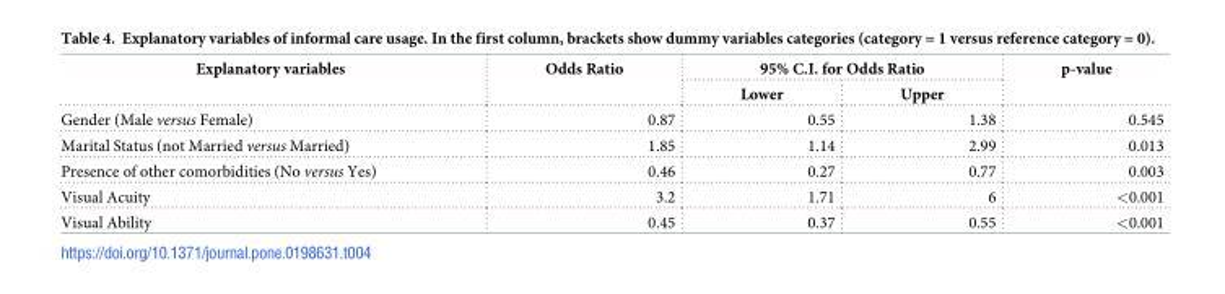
<table><thead><tr><td rowspan="2">Explanatory variables</td><td rowspan="2">Odds Ratio</td><td colspan="2">95% C.I. for Odds Ratio</td><td rowspan="2">p-value</td></tr><tr><td>Lower</td><td>Upper</td></tr></thead><tbody><tr><td>Gender (Male versus Female)</td><td>0.87</td><td>0.55</td><td>1.38</td><td>0.545</td></tr><tr><td>Marital Status (not Married versus Married)</td><td>1.85</td><td>1.14</td><td>2.99</td><td>0.013</td></tr><tr><td>Presence of other comorbidities (No versus Yes)</td><td>0.46</td><td>0.27</td><td>0.77</td><td>0.003</td></tr><tr><td>Visual Acuity</td><td>3.2</td><td>1.71</td><td>6</td><td>&lt;0.001</td></tr><tr><td>Visual Ability</td><td>0.45</td><td>0.37</td><td>0.55</td><td>&lt;0.001</td></tr></tbody></table>